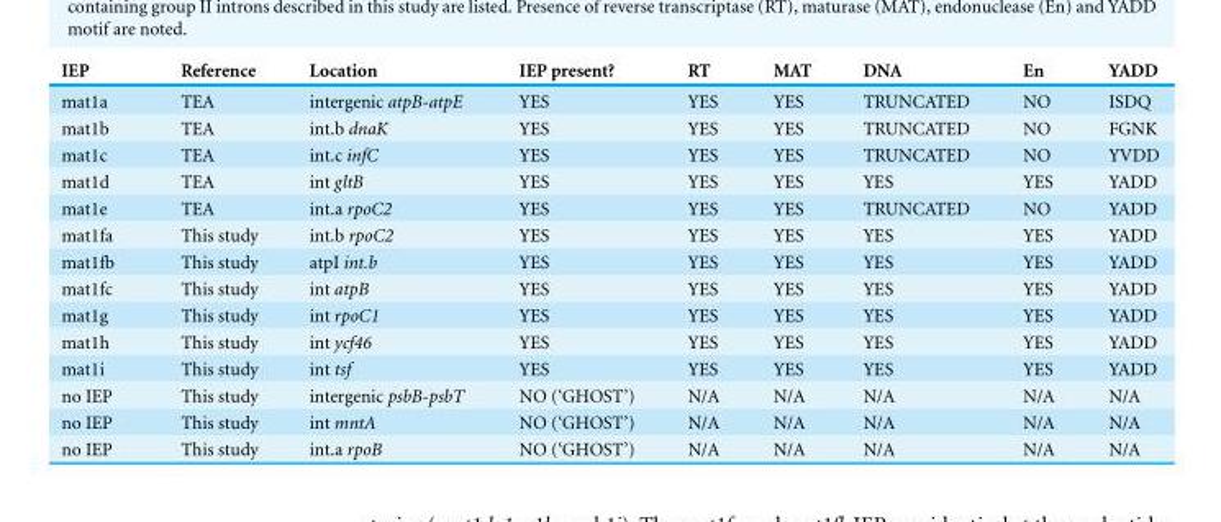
<table><thead><tr><td>IEP</td><td>Reference</td><td>Location</td><td>IEP present?</td><td>RT</td><td>MAT</td><td>DNA</td><td>En</td><td>YADD</td></tr></thead><tbody><tr><td>mat1a</td><td>TEA</td><td>intergenic atpB-atpE</td><td>YES</td><td>YES</td><td>YES</td><td>TRUNCATED</td><td>NO</td><td>ISDQ</td></tr><tr><td>mat1b</td><td>TEA</td><td>int.b dnaK</td><td>YES</td><td>YES</td><td>YES</td><td>TRUNCATED</td><td>NO</td><td>FGNK</td></tr><tr><td>mat1c</td><td>TEA</td><td>int.c infC</td><td>YES</td><td>YES</td><td>YES</td><td>TRUNCATED</td><td>NO</td><td>YVDD</td></tr><tr><td>mat1d</td><td>TEA</td><td>int gltB</td><td>YES</td><td>YES</td><td>YES</td><td>YES</td><td>YES</td><td>YADD</td></tr><tr><td>mat1e</td><td>TEA</td><td>int.a rpoC2</td><td>YES</td><td>YES</td><td>YES</td><td>TRUNCATED</td><td>NO</td><td>YADD</td></tr><tr><td>mat1fa</td><td>This study</td><td>int.b rpoC2</td><td>YES</td><td>YES</td><td>YES</td><td>YES</td><td>YES</td><td>YADD</td></tr><tr><td>mat1fb</td><td>This study</td><td>atpI int.b</td><td>YES</td><td>YES</td><td>YES</td><td>YES</td><td>YES</td><td>YADD</td></tr><tr><td>mat1fc</td><td>This study</td><td>int atpB</td><td>YES</td><td>YES</td><td>YES</td><td>YES</td><td>YES</td><td>YADD</td></tr><tr><td>mat1g</td><td>This study</td><td>int rpoC1</td><td>YES</td><td>YES</td><td>YES</td><td>YES</td><td>YES</td><td>YADD</td></tr><tr><td>mat1h</td><td>This study</td><td>int ycf46</td><td>YES</td><td>YES</td><td>YES</td><td>YES</td><td>YES</td><td>YADD</td></tr><tr><td>mat1i</td><td>This study</td><td>int tsf</td><td>YES</td><td>YES</td><td>YES</td><td>YES</td><td>YES</td><td>YADD</td></tr><tr><td>no IEP</td><td>This study</td><td>intergenic psbB-psbT</td><td>NO (‘GHOST’)</td><td>N/A</td><td>N/A</td><td>N/A</td><td>N/A</td><td>N/A</td></tr><tr><td>no IEP</td><td>This study</td><td>int mntA</td><td>NO (‘GHOST’)</td><td>N/A</td><td>N/A</td><td>N/A</td><td>N/A</td><td>N/A</td></tr><tr><td>no IEP</td><td>This study</td><td>int.a rpoB</td><td>NO (‘GHOST’)</td><td>N/A</td><td>N/A</td><td>N/A</td><td>N/A</td><td>N/A</td></tr></tbody></table>